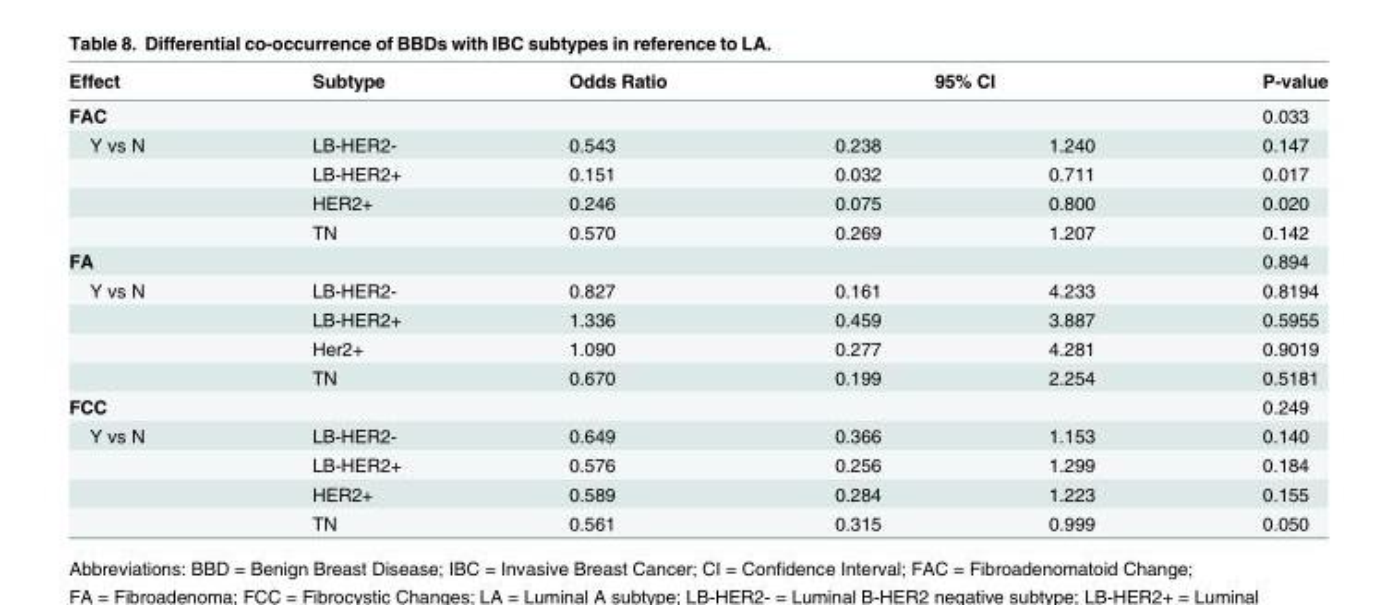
<table><thead><tr><td rowspan="2">Effect FAC</td><td rowspan="2">Subtype</td><td rowspan="2">Odds Ratio</td><td colspan="2">95% CI</td><td rowspan="2">P-value 0.033</td></tr><tr><td></td><td></td></tr></thead><tbody><tr><td rowspan="4">Y vs N</td><td>LB-HER2-</td><td>0.543</td><td>0.238</td><td>1.240</td><td>0.147</td></tr><tr><td>LB-HER2+</td><td>0.151</td><td>0.032</td><td>0.711</td><td>0.017</td></tr><tr><td>HER2+</td><td>0.246</td><td>0.075</td><td>0.800</td><td>0.020</td></tr><tr><td>TN</td><td>0.570</td><td>0.269</td><td>1.207</td><td>0.142</td></tr><tr><td>FA</td><td></td><td></td><td></td><td></td><td>0.894</td></tr><tr><td rowspan="4">Y vs N</td><td>LB-HER2-</td><td>0.827</td><td>0.161</td><td>4.233</td><td>0.8194</td></tr><tr><td>LB-HER2+</td><td>1.336</td><td>0.459</td><td>3.887</td><td>0.5955</td></tr><tr><td>Her2+</td><td>1.090</td><td>0.277</td><td>4.281</td><td>0.9019</td></tr><tr><td>TN</td><td>0.670</td><td>0.199</td><td>2.254</td><td>0.5181</td></tr><tr><td>FCC</td><td></td><td></td><td></td><td></td><td>0.249</td></tr><tr><td rowspan="4">Y vs N</td><td>LB-HER2-</td><td>0.649</td><td>0.366</td><td>1.153</td><td>0.140</td></tr><tr><td>LB-HER2+</td><td>0.576</td><td>0.256</td><td>1.299</td><td>0.184</td></tr><tr><td>HER2+</td><td>0.589</td><td>0.284</td><td>1.223</td><td>0.155</td></tr><tr><td>TN</td><td>0.561</td><td>0.315</td><td>0.999</td><td>0.050</td></tr></tbody></table>